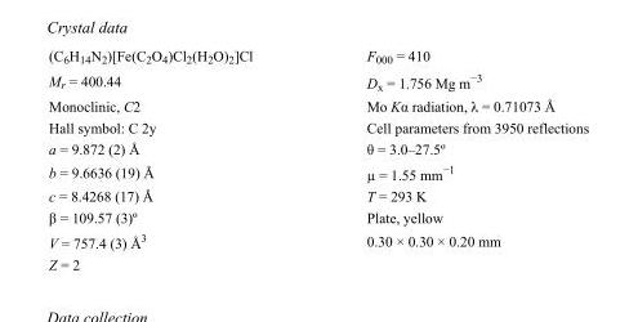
<table><tbody><tr><td>(C<sub>6</sub>H<sub>14</sub>N<sub>2</sub>)[Fe(C<sub>2</sub>O<sub>4</sub>)Cl<sub>2</sub>(H<sub>2</sub>O)<sub>2</sub>]Cl</td><td>F000 = 410</td></tr><tr><td>M<sub>r</sub> = 400.44</td><td>D<sub>x</sub> = 1.756 Mg m<sup>−3</sup></td></tr><tr><td>Monoclinic, C2</td><td>Mo Kα radiation, λ = 0.71073 Å</td></tr><tr><td>Hall symbol: C 2y</td><td>Cell parameters from 3950 reflections</td></tr><tr><td>a = 9.872 (2) Å</td><td>θ = 3.0–27.5º</td></tr><tr><td>b = 9.6636 (19) Å</td><td>µ = 1.55 mm<sup>−1</sup></td></tr><tr><td>c = 8.4268 (17) Å</td><td>T = 293 K</td></tr><tr><td>β = 109.57 (3)º</td><td>Plate, yellow</td></tr><tr><td>V = 757.4 (3) Å<sup>3</sup></td><td>0.30 × 0.30 × 0.20 mm</td></tr><tr><td>Z = 2</td><td></td></tr></tbody></table>